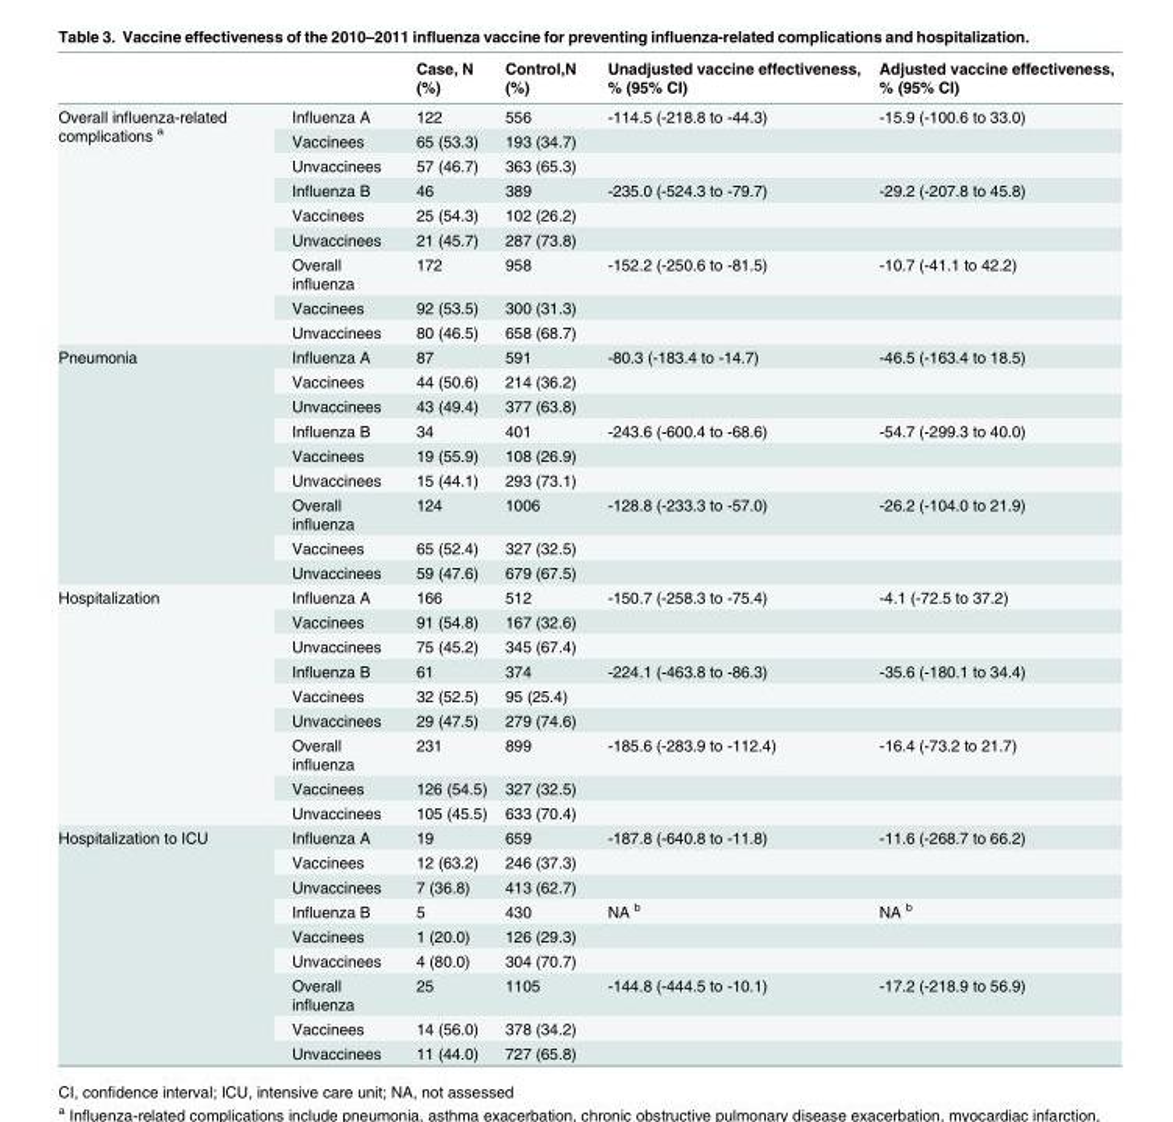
<table><thead><tr><td></td><td></td><td>Case, N (%)</td><td>Control,N (%)</td><td>Unadjusted vaccine effectiveness, % (95% CI)</td><td>Adjusted vaccine effectiveness, % (95% CI)</td></tr></thead><tbody><tr><td rowspan="9">Overall influenza-related complications <sup>a</sup></td><td>Influenza A</td><td>122</td><td>556</td><td>-114.5 (-218.8 to -44.3)</td><td>-15.9 (-100.6 to 33.0)</td></tr><tr><td>Vaccinees</td><td>65 (53.3)</td><td>193 (34.7)</td><td></td><td></td></tr><tr><td>Unvaccinees</td><td>57 (46.7)</td><td>363 (65.3)</td><td></td><td></td></tr><tr><td>Influenza B</td><td>46</td><td>389</td><td>-235.0 (-524.3 to -79.7)</td><td>-29.2 (-207.8 to 45.8)</td></tr><tr><td>Vaccinees</td><td>25 (54.3)</td><td>102 (26.2)</td><td></td><td></td></tr><tr><td>Unvaccinees</td><td>21 (45.7)</td><td>287 (73.8)</td><td></td><td></td></tr><tr><td>Overall influenza</td><td>172</td><td>958</td><td>-152.2 (-250.6 to -81.5)</td><td>-10.7 (-41.1 to 42.2)</td></tr><tr><td>Vaccinees</td><td>92 (53.5)</td><td>300 (31.3)</td><td></td><td></td></tr><tr><td>Unvaccinees</td><td>80 (46.5)</td><td>658 (68.7)</td><td></td><td></td></tr><tr><td rowspan="9">Pneumonia</td><td>Influenza A</td><td>87</td><td>591</td><td>-80.3 (-183.4 to -14.7)</td><td>-46.5 (-163.4 to 18.5)</td></tr><tr><td>Vaccinees</td><td>44 (50.6)</td><td>214 (36.2)</td><td></td><td></td></tr><tr><td>Unvaccinees</td><td>43 (49.4)</td><td>377 (63.8)</td><td></td><td></td></tr><tr><td>Influenza B</td><td>34</td><td>401</td><td>-243.6 (-600.4 to -68.6)</td><td>-54.7 (-299.3 to 40.0)</td></tr><tr><td>Vaccinees</td><td>19 (55.9)</td><td>108 (26.9)</td><td></td><td></td></tr><tr><td>Unvaccinees</td><td>15 (44.1)</td><td>293 (73.1)</td><td></td><td></td></tr><tr><td>Overall influenza</td><td>124</td><td>1006</td><td>-128.8 (-233.3 to -57.0)</td><td>-26.2 (-104.0 to 21.9)</td></tr><tr><td>Vaccinees</td><td>65 (52.4)</td><td>327 (32.5)</td><td></td><td></td></tr><tr><td>Unvaccinees</td><td>59 (47.6)</td><td>679 (67.5)</td><td></td><td></td></tr><tr><td rowspan="9">Hospitalization</td><td>Influenza A</td><td>166</td><td>512</td><td>-150.7 (-258.3 to -75.4)</td><td>-4.1 (-72.5 to 37.2)</td></tr><tr><td>Vaccinees</td><td>91 (54.8)</td><td>167 (32.6)</td><td></td><td></td></tr><tr><td>Unvaccinees</td><td>75 (45.2)</td><td>345 (67.4)</td><td></td><td></td></tr><tr><td>Influenza B</td><td>61</td><td>374</td><td>-224.1 (-463.8 to -86.3)</td><td>-35.6 (-180.1 to 34.4)</td></tr><tr><td>Vaccinees</td><td>32 (52.5)</td><td>95 (25.4)</td><td></td><td></td></tr><tr><td>Unvaccinees</td><td>29 (47.5)</td><td>279 (74.6)</td><td></td><td></td></tr><tr><td>Overall influenza</td><td>231</td><td>899</td><td>-185.6 (-283.9 to -112.4)</td><td>-16.4 (-73.2 to 21.7)</td></tr><tr><td>Vaccinees</td><td>126 (54.5)</td><td>327 (32.5)</td><td></td><td></td></tr><tr><td>Unvaccinees</td><td>105 (45.5)</td><td>633 (70.4)</td><td></td><td></td></tr><tr><td rowspan="9">Hospitalization to ICU</td><td>Influenza A</td><td>19</td><td>659</td><td>-187.8 (-640.8 to -11.8)</td><td>-11.6 (-268.7 to 66.2)</td></tr><tr><td>Vaccinees</td><td>12 (63.2)</td><td>246 (37.3)</td><td></td><td></td></tr><tr><td>Unvaccinees</td><td>7 (36.8)</td><td>413 (62.7)</td><td></td><td></td></tr><tr><td>Influenza B</td><td>5</td><td>430</td><td>NA <sup>b</sup></td><td>NA <sup>b</sup></td></tr><tr><td>Vaccinees</td><td>1 (20.0)</td><td>126 (29.3)</td><td></td><td></td></tr><tr><td>Unvaccinees</td><td>4 (80.0)</td><td>304 (70.7)</td><td></td><td></td></tr><tr><td>Overall influenza</td><td>25</td><td>1105</td><td>-144.8 (-444.5 to -10.1)</td><td>-17.2 (-218.9 to 56.9)</td></tr><tr><td>Vaccinees</td><td>14 (56.0)</td><td>378 (34.2)</td><td></td><td></td></tr><tr><td>Unvaccinees</td><td>11 (44.0)</td><td>727 (65.8)</td><td></td><td></td></tr></tbody></table>